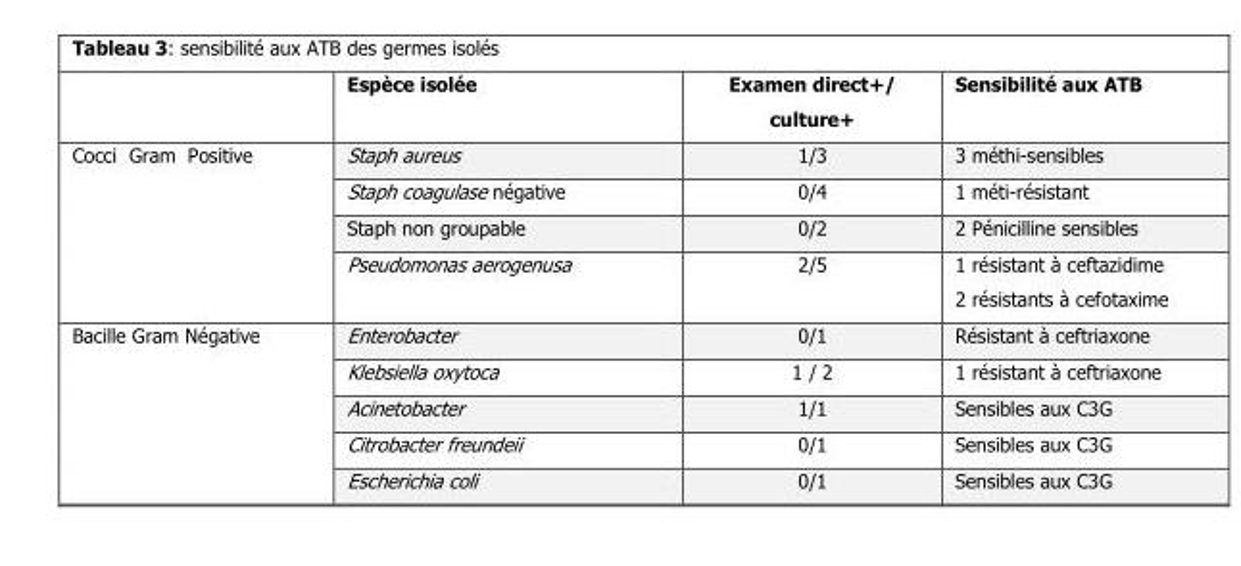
<table><thead><tr><td></td><td>Espèce isolée</td><td>Examen direct+/ culture+</td><td>Sensibilité aux ATB</td></tr></thead><tbody><tr><td rowspan="4">Cocci Gram Positive</td><td>Staph aureus</td><td>1/3</td><td>3 méthi-sensibles</td></tr><tr><td>Staph coagulase négative</td><td>0/4</td><td>1 méti-résistant</td></tr><tr><td>Staph non groupable</td><td>0/2</td><td>2 Pénicilline sensibles</td></tr><tr><td>Pseudomonas aerogenusa</td><td>2/5</td><td>1 résistant à ceftazidime 2 résistants à cefotaxime</td></tr><tr><td rowspan="5">Bacille Gram Négative</td><td>Enterobacter</td><td>0/1</td><td>Résistant à ceftriaxone</td></tr><tr><td>Klebsiella oxytoca</td><td>1 / 2</td><td>1 résistant à ceftriaxone</td></tr><tr><td>Acinetobacter</td><td>1/1</td><td>Sensibles aux C3G</td></tr><tr><td>Citrobacter freundeii</td><td>0/1</td><td>Sensibles aux C3G</td></tr><tr><td>Escherichia coli</td><td>0/1</td><td>Sensibles aux C3G</td></tr></tbody></table>